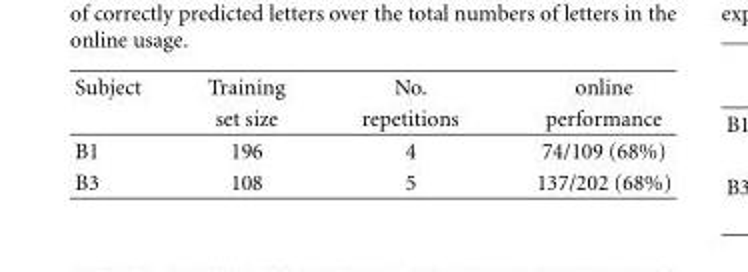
<table><thead><tr><td rowspan="2">Subject</td><td rowspan="2">Training set size</td><td rowspan="2">No. repetitions</td><td rowspan="2">online performance</td></tr><tr></tr></thead><tbody><tr><td>B1</td><td>196</td><td>4</td><td>74/109 (68%)</td></tr><tr><td>B3</td><td>108</td><td>5</td><td>137/202 (68%)</td></tr></tbody></table>